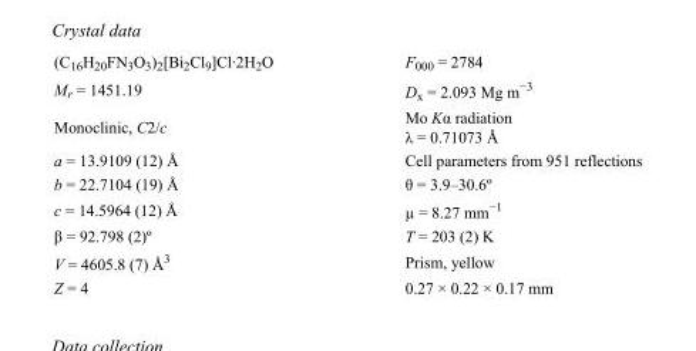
<table><tbody><tr><td>(C<sub>16</sub>H<sub>20</sub>FN<sub>3</sub>O<sub>3</sub>)<sub>2</sub>[Bi<sub>2</sub>Cl<sub>9</sub>]Cl·2H<sub>2</sub>O</td><td>F<sub>000</sub> = 2784</td></tr><tr><td>M<sub>r</sub> = 1451.19</td><td>D<sub>x</sub> = 2.093 Mg m<sup>−3</sup></td></tr><tr><td>Monoclinic, C2/c</td><td>Mo Kα radiation λ = 0.71073 Å</td></tr><tr><td>a = 13.9109 (12) Å</td><td>Cell parameters from 951 reflections</td></tr><tr><td>b = 22.7104 (19) Å</td><td>θ = 3.9–30.6º</td></tr><tr><td>c = 14.5964 (12) Å</td><td>µ = 8.27 mm<sup>−1</sup></td></tr><tr><td>β = 92.798 (2)º</td><td>T = 203 (2) K</td></tr><tr><td>V = 4605.8 (7) Å<sup>3</sup></td><td>Prism, yellow</td></tr><tr><td>Z = 4</td><td>0.27 × 0.22 × 0.17 mm</td></tr></tbody></table>